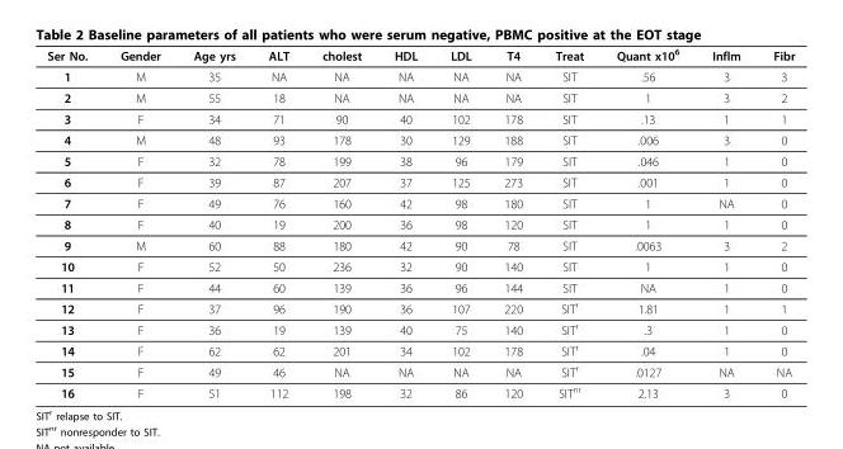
<table><thead><tr><td>Ser No.</td><td>Gender</td><td>Age yrs</td><td>ALT</td><td>cholest</td><td>HDL</td><td>LDL</td><td>T4</td><td>Treat</td><td>Quant x10<sup>6</sup></td><td>Inflm</td><td>Fibr</td></tr></thead><tbody><tr><td>1</td><td>M</td><td>35</td><td>NA</td><td>NA</td><td>NA</td><td>NA</td><td>NA</td><td>SIT</td><td>.56</td><td>3</td><td>3</td></tr><tr><td>2</td><td>M</td><td>55</td><td>18</td><td>NA</td><td>NA</td><td>NA</td><td>NA</td><td>SIT</td><td>1</td><td>3</td><td>2</td></tr><tr><td>3</td><td>F</td><td>34</td><td>71</td><td>90</td><td>40</td><td>102</td><td>178</td><td>SIT</td><td>.13</td><td>1</td><td>1</td></tr><tr><td>4</td><td>M</td><td>48</td><td>93</td><td>178</td><td>30</td><td>129</td><td>188</td><td>SIT</td><td>.006</td><td>3</td><td>0</td></tr><tr><td>5</td><td>F</td><td>32</td><td>78</td><td>199</td><td>38</td><td>96</td><td>179</td><td>SIT</td><td>.046</td><td>1</td><td>0</td></tr><tr><td>6</td><td>F</td><td>39</td><td>87</td><td>207</td><td>37</td><td>125</td><td>273</td><td>SIT</td><td>.001</td><td>1</td><td>0</td></tr><tr><td>7</td><td>F</td><td>49</td><td>76</td><td>160</td><td>42</td><td>98</td><td>180</td><td>SIT</td><td>1</td><td>NA</td><td>0</td></tr><tr><td>8</td><td>F</td><td>40</td><td>19</td><td>200</td><td>36</td><td>98</td><td>120</td><td>SIT</td><td>1</td><td>1</td><td>0</td></tr><tr><td>9</td><td>M</td><td>60</td><td>88</td><td>180</td><td>42</td><td>90</td><td>78</td><td>SIT</td><td>.0063</td><td>3</td><td>2</td></tr><tr><td>10</td><td>F</td><td>52</td><td>50</td><td>236</td><td>32</td><td>90</td><td>140</td><td>SIT</td><td>1</td><td>1</td><td>0</td></tr><tr><td>11</td><td>F</td><td>44</td><td>60</td><td>139</td><td>36</td><td>96</td><td>144</td><td>SIT</td><td>NA</td><td>1</td><td>0</td></tr><tr><td>12</td><td>F</td><td>37</td><td>96</td><td>190</td><td>36</td><td>107</td><td>220</td><td>SIT<sup>r</sup></td><td>1.81</td><td>1</td><td>1</td></tr><tr><td>13</td><td>F</td><td>36</td><td>19</td><td>139</td><td>40</td><td>75</td><td>140</td><td>SIT<sup>r</sup></td><td>.3</td><td>1</td><td>0</td></tr><tr><td>14</td><td>F</td><td>62</td><td>62</td><td>201</td><td>34</td><td>102</td><td>178</td><td>SIT<sup>r</sup></td><td>.04</td><td>1</td><td>0</td></tr><tr><td>15</td><td>F</td><td>49</td><td>46</td><td>NA</td><td>NA</td><td>NA</td><td>NA</td><td>SIT<sup>r</sup></td><td>.0127</td><td>NA</td><td>NA</td></tr><tr><td>16</td><td>F</td><td>51</td><td>112</td><td>198</td><td>32</td><td>86</td><td>120</td><td>SIT<sup>nr</sup></td><td>2.13</td><td>3</td><td>0</td></tr></tbody></table>